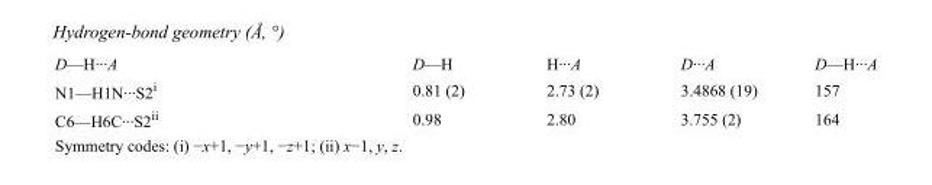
<table><tbody><tr><td>D—H···A</td><td>D—H</td><td>H···A</td><td>D···A</td><td>D—H···A</td></tr><tr><td>N1—H1N···S2<sup>i</sup></td><td>0.81 (2)</td><td>2.73 (2)</td><td>3.4868 (19)</td><td>157</td></tr><tr><td>C6—H6C···S2<sup>ii</sup></td><td>0.98</td><td>2.80</td><td>3.755 (2)</td><td>164</td></tr></tbody></table>